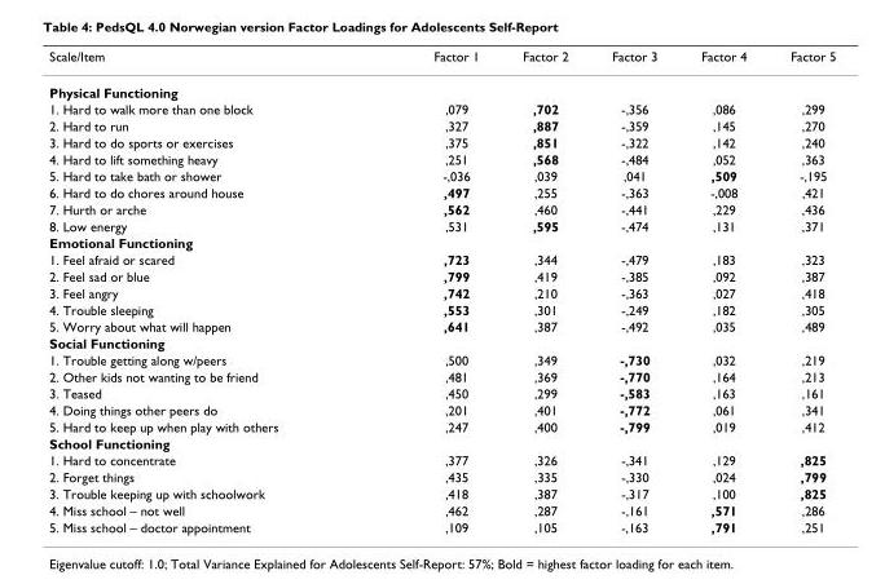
<table><thead><tr><td>Scale/Item</td><td>Factor 1</td><td>Factor 2</td><td>Factor 3</td><td>Factor 4</td><td>Factor 5</td></tr></thead><tbody><tr><td colspan="6">Physical Functioning</td></tr><tr><td>1. Hard to walk more than one block</td><td>,079</td><td>,702</td><td>-,356</td><td>,086</td><td>,299</td></tr><tr><td>2. Hard to run</td><td>,327</td><td>,887</td><td>-,359</td><td>,145</td><td>,270</td></tr><tr><td>3. Hard to do sports or exercises</td><td>,375</td><td>,851</td><td>-,322</td><td>,142</td><td>,240</td></tr><tr><td>4. Hard to lift something heavy</td><td>,251</td><td>,568</td><td>-,484</td><td>,052</td><td>,363</td></tr><tr><td>5. Hard to take bath or shower</td><td>-,036</td><td>,039</td><td>,041</td><td>,509</td><td>-,195</td></tr><tr><td>6. Hard to do chores around house</td><td>,497</td><td>,255</td><td>-,363</td><td>-,008</td><td>,421</td></tr><tr><td>7. Hurth or arche</td><td>,562</td><td>,460</td><td>-,441</td><td>,229</td><td>,436</td></tr><tr><td>8. Low energy</td><td>,531</td><td>,595</td><td>-,474</td><td>,131</td><td>,371</td></tr><tr><td colspan="6">Emotional Functioning</td></tr><tr><td>1. Feel afraid or scared</td><td>,723</td><td>,344</td><td>-,479</td><td>,183</td><td>,323</td></tr><tr><td>2. Feel sad or blue</td><td>,799</td><td>,419</td><td>-,385</td><td>,092</td><td>,387</td></tr><tr><td>3. Feel angry</td><td>,742</td><td>,210</td><td>-,363</td><td>,027</td><td>,418</td></tr><tr><td>4. Trouble sleeping</td><td>,553</td><td>,301</td><td>-,249</td><td>,182</td><td>,305</td></tr><tr><td>5. Worry about what will happen</td><td>,641</td><td>,387</td><td>-,492</td><td>,035</td><td>,489</td></tr><tr><td colspan="6">Social Functioning</td></tr><tr><td>1. Trouble getting along w/peers</td><td>,500</td><td>,349</td><td>-,730</td><td>,032</td><td>,219</td></tr><tr><td>2. Other kids not wanting to be friend</td><td>,481</td><td>,369</td><td>-,770</td><td>,164</td><td>,213</td></tr><tr><td>3. Teased</td><td>,450</td><td>,299</td><td>-,583</td><td>,163</td><td>,161</td></tr><tr><td>4. Doing things other peers do</td><td>,201</td><td>,401</td><td>-,772</td><td>,061</td><td>,341</td></tr><tr><td>5. Hard to keep up when play with others</td><td>,247</td><td>,400</td><td>-,799</td><td>,019</td><td>,412</td></tr><tr><td colspan="6">School Functioning</td></tr><tr><td>1. Hard to concentrate</td><td>,377</td><td>,326</td><td>-,341</td><td>,129</td><td>,825</td></tr><tr><td>2. Forget things</td><td>,435</td><td>,335</td><td>-,330</td><td>,024</td><td>,799</td></tr><tr><td>3. Trouble keeping up with schoolwork</td><td>,418</td><td>,387</td><td>-,317</td><td>,100</td><td>,825</td></tr><tr><td>4. Miss school – not well</td><td>,462</td><td>,287</td><td>-,161</td><td>,571</td><td>,286</td></tr><tr><td>5. Miss school – doctor appointment</td><td>,109</td><td>,105</td><td>-,163</td><td>,791</td><td>,251</td></tr></tbody></table>